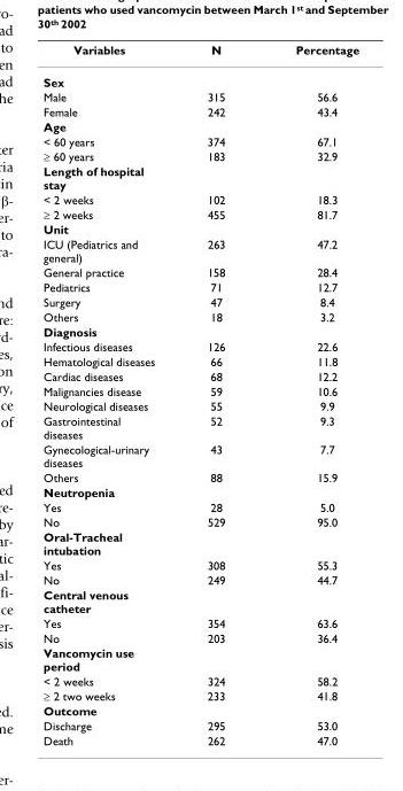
<table><thead><tr><td>Variables</td><td>N</td><td>Percentage</td></tr></thead><tbody><tr><td colspan="3">Sex</td></tr><tr><td>Male</td><td>315</td><td>56.6</td></tr><tr><td>Female</td><td>242</td><td>43.4</td></tr><tr><td colspan="3">Age</td></tr><tr><td>&lt; 60 years</td><td>374</td><td>67.1</td></tr><tr><td>≥ 60 years</td><td>183</td><td>32.9</td></tr><tr><td colspan="3">Length of hospital stay</td></tr><tr><td>&lt; 2 weeks</td><td>102</td><td>18.3</td></tr><tr><td>≥ 2 weeks</td><td>455</td><td>81.7</td></tr><tr><td colspan="3">Unit</td></tr><tr><td>ICU (Pediatrics and general)</td><td>263</td><td>47.2</td></tr><tr><td>General practice</td><td>158</td><td>28.4</td></tr><tr><td>Pediatrics</td><td>71</td><td>12.7</td></tr><tr><td>Surgery</td><td>47</td><td>8.4</td></tr><tr><td>Others</td><td>18</td><td>3.2</td></tr><tr><td colspan="3">Diagnosis</td></tr><tr><td>Infectious diseases</td><td>126</td><td>22.6</td></tr><tr><td>Hematological diseases</td><td>66</td><td>11.8</td></tr><tr><td>Cardiac diseases</td><td>68</td><td>12.2</td></tr><tr><td>Malignancies disease</td><td>59</td><td>10.6</td></tr><tr><td>Neurological diseases</td><td>55</td><td>9.9</td></tr><tr><td>Gastrointestinal diseases</td><td>52</td><td>9.3</td></tr><tr><td>Gynecological-urinary diseases</td><td>43</td><td>7.7</td></tr><tr><td>Others</td><td>88</td><td>15.9</td></tr><tr><td colspan="3">Neutropenia</td></tr><tr><td>Yes</td><td>28</td><td>5.0</td></tr><tr><td>No</td><td>529</td><td>95.0</td></tr><tr><td colspan="3">Oral-Tracheal intubation</td></tr><tr><td>Yes</td><td>308</td><td>55.3</td></tr><tr><td>No</td><td>249</td><td>44.7</td></tr><tr><td colspan="3">Central venous catheter</td></tr><tr><td>Yes</td><td>354</td><td>63.6</td></tr><tr><td>No</td><td>203</td><td>36.4</td></tr><tr><td colspan="3">Vancomycin use period</td></tr><tr><td>&lt; 2 weeks</td><td>324</td><td>58.2</td></tr><tr><td>≥ 2 two weeks</td><td>233</td><td>41.8</td></tr><tr><td colspan="3">Outcome</td></tr><tr><td>Discharge</td><td>295</td><td>53.0</td></tr><tr><td>Death</td><td>262</td><td>47.0</td></tr></tbody></table>